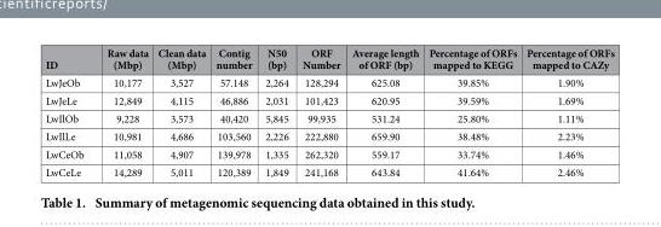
<table><thead><tr><td>ID</td><td>Raw data (Mbp)</td><td>Clean data (Mbp)</td><td>Contig number</td><td>N50 (bp)</td><td>ORF Number</td><td>Average length of ORF (bp)</td><td>Percentage of ORFs mapped to KEGG</td><td>Percentage of ORFs mapped to CAZy</td></tr></thead><tbody><tr><td>LwJeOb</td><td>10,177</td><td>3,527</td><td>57.148</td><td>2,264</td><td>128,294</td><td>625.08</td><td>39.85%</td><td>1.90%</td></tr><tr><td>LwJeLe</td><td>12,849</td><td>4,115</td><td>46,886</td><td>2,031</td><td>101,423</td><td>620.95</td><td>39.59%</td><td>1.69%</td></tr><tr><td>LwIlOb</td><td>9,228</td><td>3,573</td><td>40,420</td><td>5,845</td><td>99,935</td><td>531.24</td><td>25.80%</td><td>1.11%</td></tr><tr><td>LwIlLe</td><td>10,981</td><td>4,686</td><td>103,560</td><td>2,226</td><td>222,880</td><td>659.90</td><td>38.48%</td><td>2.23%</td></tr><tr><td>LwCeOb</td><td>11,058</td><td>4,907</td><td>139,978</td><td>1,335</td><td>262,320</td><td>559.17</td><td>33.74%</td><td>1.46%</td></tr><tr><td>LwCeLe</td><td>14,289</td><td>5,011</td><td>120,389</td><td>1,849</td><td>241,168</td><td>643.84</td><td>41.64%</td><td>2.46%</td></tr></tbody></table>